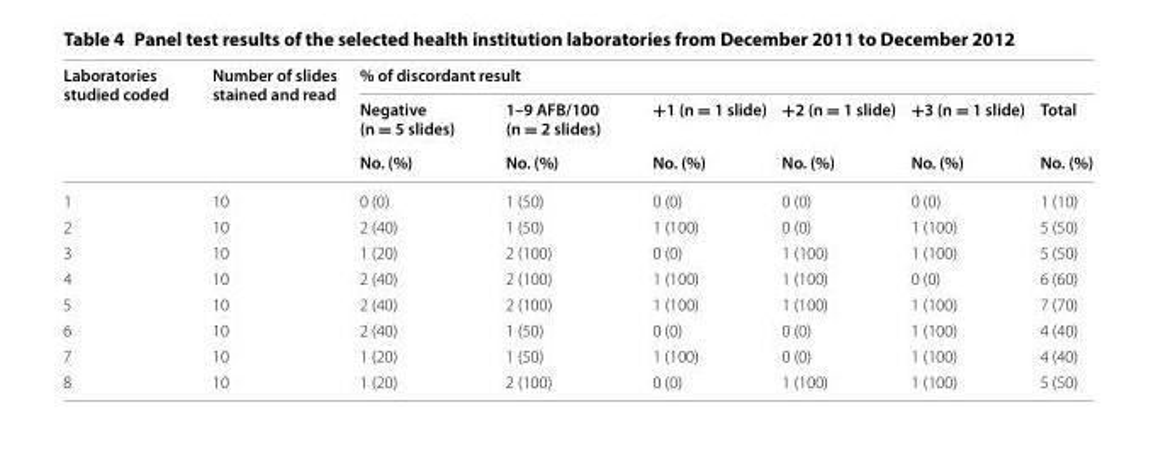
<table><thead><tr><td rowspan="3">Laboratories studied coded</td><td rowspan="3">Number of slides stained and read</td><td colspan="6">% of discordant result</td></tr><tr><td rowspan="2">Negative (n = 5 slides) No. (%)</td><td rowspan="2">1–9 AFB/100 (n = 2 slides) No. (%)</td><td rowspan="2">+1 (n = 1 slide) No. (%)</td><td rowspan="2">+2 (n = 1 slide) No. (%)</td><td rowspan="2">+3 (n = 1 slide) No. (%)</td><td rowspan="2">Total No. (%)</td></tr><tr></tr></thead><tbody><tr><td>1</td><td>10</td><td>0 (0)</td><td>1 (50)</td><td>0 (0)</td><td>0 (0)</td><td>0 (0)</td><td>1 (10)</td></tr><tr><td>2</td><td>10</td><td>2 (40)</td><td>1 (50)</td><td>1 (100)</td><td>0 (0)</td><td>1 (100)</td><td>5 (50)</td></tr><tr><td>3</td><td>10</td><td>1 (20)</td><td>2 (100)</td><td>0 (0)</td><td>1 (100)</td><td>1 (100)</td><td>5 (50)</td></tr><tr><td>4</td><td>10</td><td>2 (40)</td><td>2 (100)</td><td>1 (100)</td><td>1 (100)</td><td>0 (0)</td><td>6 (60)</td></tr><tr><td>5</td><td>10</td><td>2 (40)</td><td>2 (100)</td><td>1 (100)</td><td>1 (100)</td><td>1 (100)</td><td>7 (70)</td></tr><tr><td>6</td><td>10</td><td>2 (40)</td><td>1 (50)</td><td>0 (0)</td><td>0 (0)</td><td>1 (100)</td><td>4 (40)</td></tr><tr><td>7</td><td>10</td><td>1 (20)</td><td>1 (50)</td><td>1 (100)</td><td>0 (0)</td><td>1 (100)</td><td>4 (40)</td></tr><tr><td>8</td><td>10</td><td>1 (20)</td><td>2 (100)</td><td>0 (0)</td><td>1 (100)</td><td>1 (100)</td><td>5 (50)</td></tr></tbody></table>